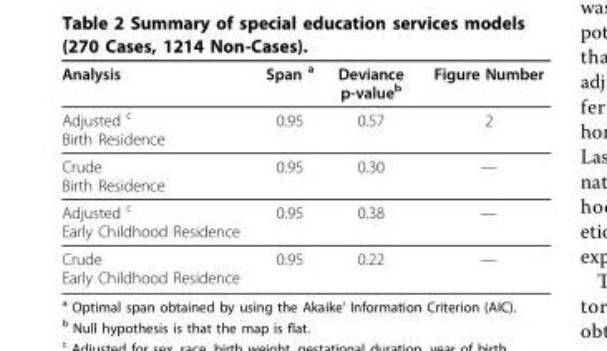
<table><thead><tr><td>Analysis</td><td>Span a</td><td>Deviance p-valueb</td><td>Figure Number</td></tr></thead><tbody><tr><td>Adjusted c Birth Residence</td><td>0.95</td><td>0.57</td><td>2</td></tr><tr><td>Crude Birth Residence</td><td>0.95</td><td>0.30</td><td>—</td></tr><tr><td>Adjusted c Early Childhood Residence</td><td>0.95</td><td>0.38</td><td>—</td></tr><tr><td>Crude Early Childhood Residence</td><td>0.95</td><td>0.22</td><td>—</td></tr></tbody></table>